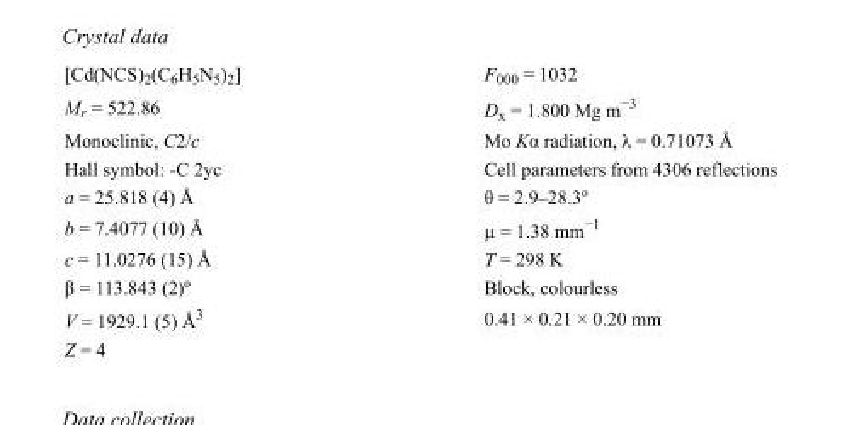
<table><tbody><tr><td>[Cd(NCS)<sub>2</sub>(C<sub>6</sub>H<sub>5</sub>N<sub>5</sub>)<sub>2</sub>]</td><td>F000 = 1032</td></tr><tr><td>M<sub>r</sub> = 522.86</td><td>D<sub>x</sub> = 1.800 Mg m<sup>−3</sup></td></tr><tr><td>Monoclinic, C2/c</td><td>Mo Kα radiation, λ = 0.71073 Å</td></tr><tr><td>Hall symbol: -C 2yc</td><td>Cell parameters from 4306 reflections</td></tr><tr><td>a = 25.818 (4) Å</td><td>θ = 2.9–28.3º</td></tr><tr><td>b = 7.4077 (10) Å</td><td>µ = 1.38 mm<sup>−1</sup></td></tr><tr><td>c = 11.0276 (15) Å</td><td>T = 298 K</td></tr><tr><td>β = 113.843 (2)º</td><td>Block, colourless</td></tr><tr><td>V = 1929.1 (5) Å<sup>3</sup></td><td>0.41 × 0.21 × 0.20 mm</td></tr><tr><td>Z = 4</td><td></td></tr></tbody></table>